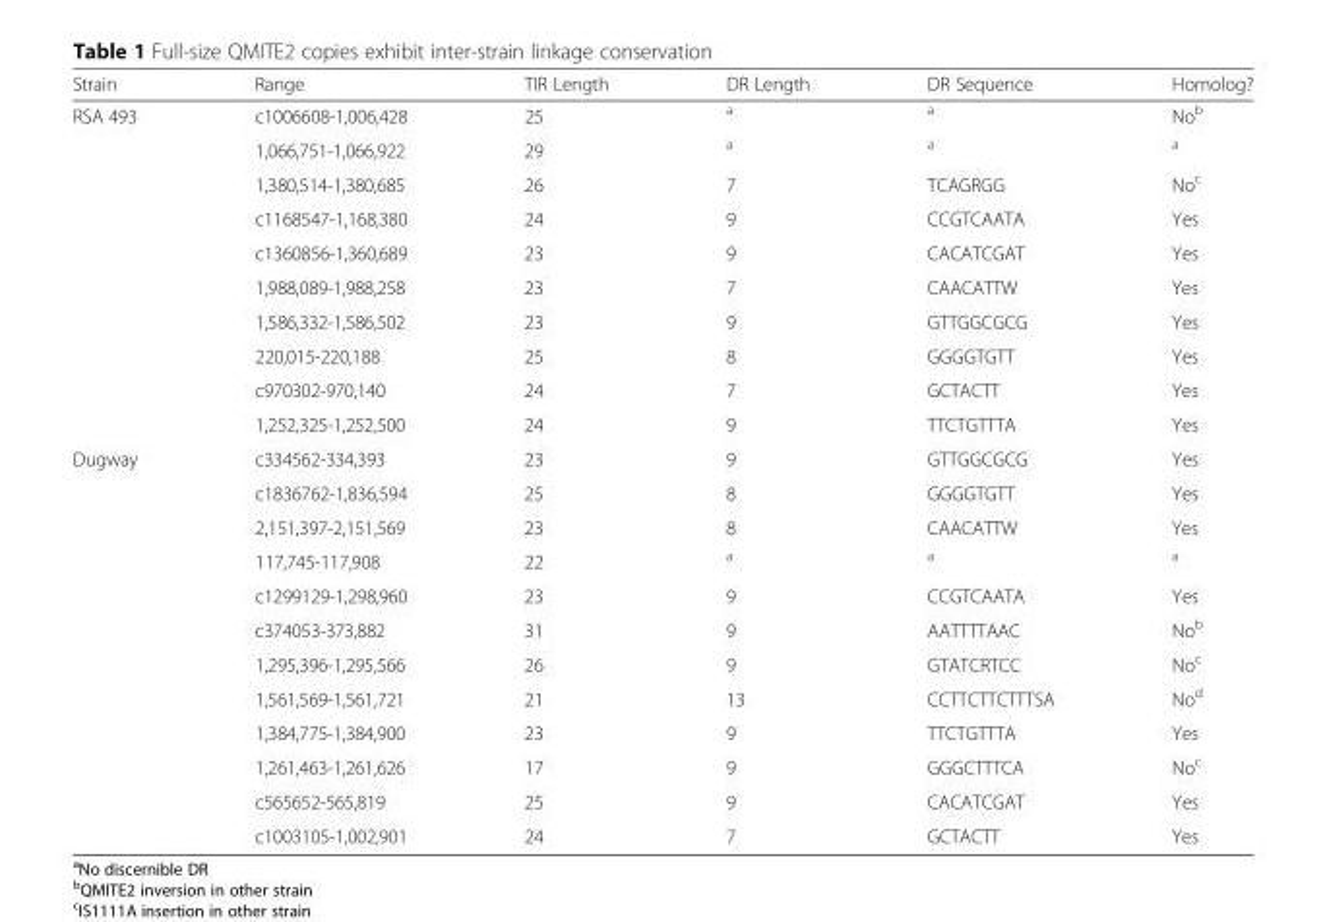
<table><thead><tr><td>Strain</td><td>Range</td><td>TIR Length</td><td>DR Length</td><td>DR Sequence</td><td>Homolog?</td></tr></thead><tbody><tr><td rowspan="10">RSA 493</td><td>c1006608-1,006,428</td><td>25</td><td><sup>a</sup></td><td><sup>a</sup></td><td>No<sup>b</sup></td></tr><tr><td>1,066,751-1,066,922</td><td>29</td><td><sup>a</sup></td><td><sup>a</sup></td><td><sup>a</sup></td></tr><tr><td>1,380,514-1,380,685</td><td>26</td><td>7</td><td>TCAGRGG</td><td>No<sup>c</sup></td></tr><tr><td>c1168547-1,168,380</td><td>24</td><td>9</td><td>CCGTCAATA</td><td>Yes</td></tr><tr><td>c1360856-1,360,689</td><td>23</td><td>9</td><td>CACATCGAT</td><td>Yes</td></tr><tr><td>1,988,089-1,988,258</td><td>23</td><td>7</td><td>CAACATTW</td><td>Yes</td></tr><tr><td>1,586,332-1,586,502</td><td>23</td><td>9</td><td>GTTGGCGCG</td><td>Yes</td></tr><tr><td>220,015-220,188</td><td>25</td><td>8</td><td>GGGGTGTT</td><td>Yes</td></tr><tr><td>c970302-970,140</td><td>24</td><td>7</td><td>GCTACTT</td><td>Yes</td></tr><tr><td>1,252,325-1,252,500</td><td>24</td><td>9</td><td>TTCTGTTTA</td><td>Yes</td></tr><tr><td rowspan="12">Dugway</td><td>c334562-334,393</td><td>23</td><td>9</td><td>GTTGGCGCG</td><td>Yes</td></tr><tr><td>c1836762-1,836,594</td><td>25</td><td>8</td><td>GGGGTGTT</td><td>Yes</td></tr><tr><td>2,151,397-2,151,569</td><td>23</td><td>8</td><td>CAACATTW</td><td>Yes</td></tr><tr><td>117,745-117,908</td><td>22</td><td><sup>a</sup></td><td><sup>a</sup></td><td><sup>a</sup></td></tr><tr><td>c1299129-1,298,960</td><td>23</td><td>9</td><td>CCGTCAATA</td><td>Yes</td></tr><tr><td>c374053-373,882</td><td>31</td><td>9</td><td>AATTTTAAC</td><td>No<sup>b</sup></td></tr><tr><td>1,295,396-1,295,566</td><td>26</td><td>9</td><td>GTATCRTCC</td><td>No<sup>c</sup></td></tr><tr><td>1,561,569-1,561,721</td><td>21</td><td>13</td><td>CCTTCTTCTTTSA</td><td>No<sup>d</sup></td></tr><tr><td>1,384,775-1,384,900</td><td>23</td><td>9</td><td>TTCTGTTTA</td><td>Yes</td></tr><tr><td>1,261,463-1,261,626</td><td>17</td><td>9</td><td>GGGCTTTCA</td><td>No<sup>c</sup></td></tr><tr><td>c565652-565,819</td><td>25</td><td>9</td><td>CACATCGAT</td><td>Yes</td></tr><tr><td>c1003105-1,002,901</td><td>24</td><td>7</td><td>GCTACTT</td><td>Yes</td></tr></tbody></table>